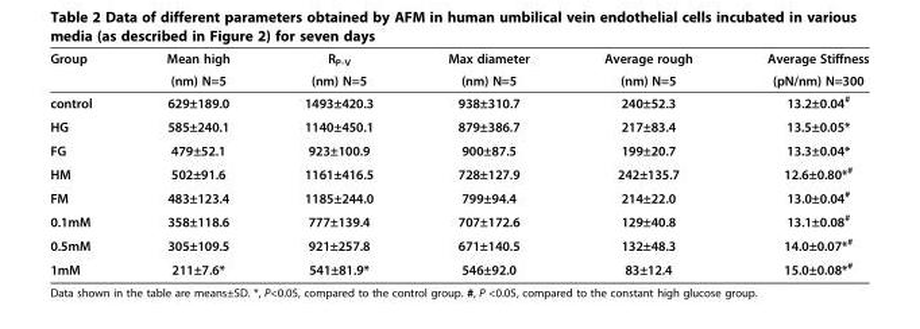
<table><thead><tr><td rowspan="2">Group</td><td rowspan="2">Mean high (nm) N=5</td><td rowspan="2">R<sub>P-V</sub> (nm) N=5</td><td rowspan="2">Max diameter (nm) N=5</td><td rowspan="2">Average rough (nm) N=5</td><td rowspan="2">Average Stiffness (pN/nm) N=300</td></tr><tr></tr></thead><tbody><tr><td>control</td><td>629±189.0</td><td>1493±420.3</td><td>938±310.7</td><td>240±52.3</td><td>13.2±0.04<sup>#</sup></td></tr><tr><td>HG</td><td>585±240.1</td><td>1140±450.1</td><td>879±386.7</td><td>217±83.4</td><td>13.5±0.05*</td></tr><tr><td>FG</td><td>479±52.1</td><td>923±100.9</td><td>900±87.5</td><td>199±20.7</td><td>13.3±0.04*</td></tr><tr><td>HM</td><td>502±91.6</td><td>1161±416.5</td><td>728±127.9</td><td>242±135.7</td><td>12.6±0.80*<sup>#</sup></td></tr><tr><td>FM</td><td>483±123.4</td><td>1185±244.0</td><td>799±94.4</td><td>214±22.0</td><td>13.0±0.04<sup>#</sup></td></tr><tr><td>0.1mM</td><td>358±118.6</td><td>777±139.4</td><td>707±172.6</td><td>129±40.8</td><td>13.1±0.08<sup>#</sup></td></tr><tr><td>0.5mM</td><td>305±109.5</td><td>921±257.8</td><td>671±140.5</td><td>132±48.3</td><td>14.0±0.07*<sup>#</sup></td></tr><tr><td>1mM</td><td>211±7.6*</td><td>541±81.9*</td><td>546±92.0</td><td>83±12.4</td><td>15.0±0.08*<sup>#</sup></td></tr></tbody></table>